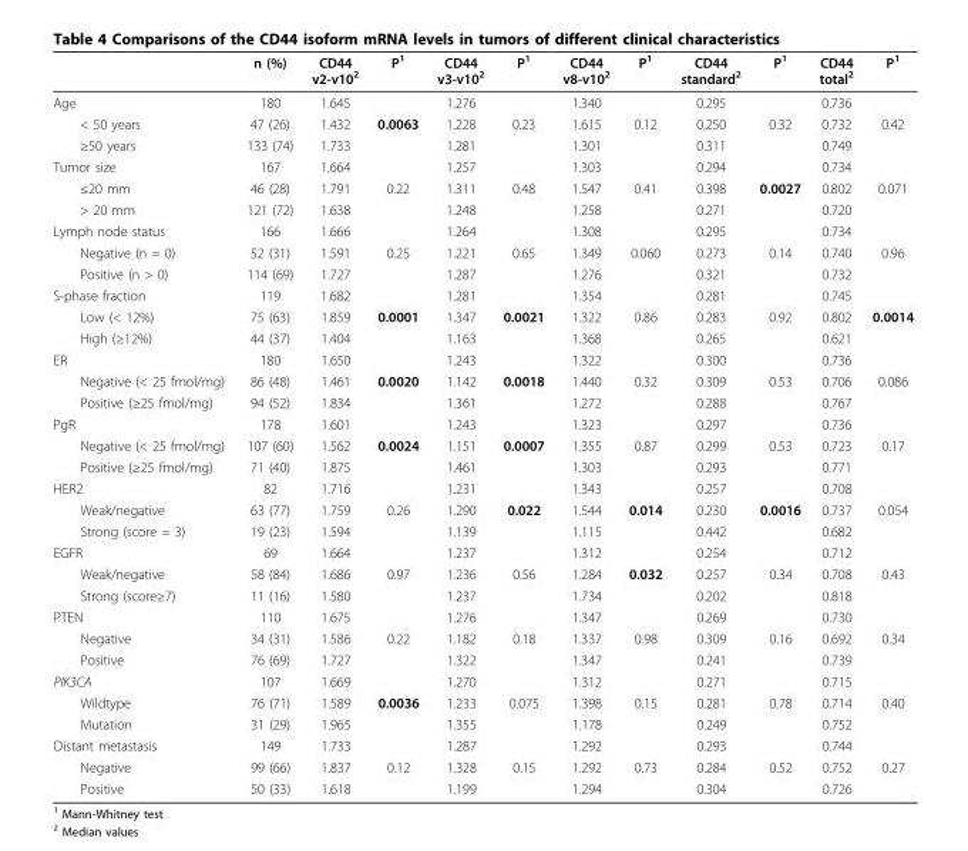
<table><thead><tr><td></td><td>n (%)</td><td>CD44 v2-v10<sup>2</sup></td><td>P<sup>1</sup></td><td>CD44 v3-v10<sup>2</sup></td><td>P<sup>1</sup></td><td>CD44 v8-v10<sup>2</sup></td><td>P<sup>1</sup></td><td>CD44 standard<sup>2</sup></td><td>P<sup>1</sup></td><td>CD44 total<sup>2</sup></td><td>P<sup>1</sup></td></tr></thead><tbody><tr><td>Age</td><td>180</td><td>1.645</td><td></td><td>1.276</td><td></td><td>1.340</td><td></td><td>0.295</td><td></td><td>0.736</td><td></td></tr><tr><td>&lt; 50 years</td><td>47 (26)</td><td>1.432</td><td>0.0063</td><td>1.228</td><td>0.23</td><td>1.615</td><td>0.12</td><td>0.250</td><td>0.32</td><td>0.732</td><td>0.42</td></tr><tr><td>≥50 years</td><td>133 (74)</td><td>1.733</td><td></td><td>1.281</td><td></td><td>1.301</td><td></td><td>0.311</td><td></td><td>0.749</td><td></td></tr><tr><td>Tumor size</td><td>167</td><td>1.664</td><td></td><td>1.257</td><td></td><td>1.303</td><td></td><td>0.294</td><td></td><td>0.734</td><td></td></tr><tr><td>≤20 mm</td><td>46 (28)</td><td>1.791</td><td>0.22</td><td>1.311</td><td>0.48</td><td>1.547</td><td>0.41</td><td>0.398</td><td>0.0027</td><td>0.802</td><td>0.071</td></tr><tr><td>&gt; 20 mm</td><td>121 (72)</td><td>1.638</td><td></td><td>1.248</td><td></td><td>1.258</td><td></td><td>0.271</td><td></td><td>0.720</td><td></td></tr><tr><td>Lymph node status</td><td>166</td><td>1.666</td><td></td><td>1.264</td><td></td><td>1.308</td><td></td><td>0.295</td><td></td><td>0.734</td><td></td></tr><tr><td>Negative (n = 0)</td><td>52 (31)</td><td>1.591</td><td>0.25</td><td>1.221</td><td>0.65</td><td>1.349</td><td>0.060</td><td>0.273</td><td>0.14</td><td>0.740</td><td>0.96</td></tr><tr><td>Positive (n &gt; 0)</td><td>114 (69)</td><td>1.727</td><td></td><td>1.287</td><td></td><td>1.276</td><td></td><td>0.321</td><td></td><td>0.732</td><td></td></tr><tr><td>S-phase fraction</td><td>119</td><td>1.682</td><td></td><td>1.281</td><td></td><td>1.354</td><td></td><td>0.281</td><td></td><td>0.745</td><td></td></tr><tr><td>Low (&lt; 12%)</td><td>75 (63)</td><td>1.859</td><td>0.0001</td><td>1.347</td><td>0.0021</td><td>1.322</td><td>0.86</td><td>0.283</td><td>0.92</td><td>0.802</td><td>0.0014</td></tr><tr><td>High (≥12%)</td><td>44 (37)</td><td>1.404</td><td></td><td>1.163</td><td></td><td>1.368</td><td></td><td>0.265</td><td></td><td>0.621</td><td></td></tr><tr><td>ER</td><td>180</td><td>1.650</td><td></td><td>1.243</td><td></td><td>1.322</td><td></td><td>0.300</td><td></td><td>0.736</td><td></td></tr><tr><td>Negative (&lt; 25 fmol/mg)</td><td>86 (48)</td><td>1.461</td><td>0.0020</td><td>1.142</td><td>0.0018</td><td>1.440</td><td>0.32</td><td>0.309</td><td>0.53</td><td>0.706</td><td>0.086</td></tr><tr><td>Positive (≥25 fmol/mg)</td><td>94 (52)</td><td>1.834</td><td></td><td>1.361</td><td></td><td>1.272</td><td></td><td>0.288</td><td></td><td>0.767</td><td></td></tr><tr><td>PgR</td><td>178</td><td>1.601</td><td></td><td>1.243</td><td></td><td>1.323</td><td></td><td>0.297</td><td></td><td>0.736</td><td></td></tr><tr><td>Negative (&lt; 25 fmol/mg)</td><td>107 (60)</td><td>1.562</td><td>0.0024</td><td>1.151</td><td>0.0007</td><td>1.355</td><td>0.87</td><td>0.299</td><td>0.53</td><td>0.723</td><td>0.17</td></tr><tr><td>Positive (≥25 fmol/mg)</td><td>71 (40)</td><td>1.875</td><td></td><td>1.461</td><td></td><td>1.303</td><td></td><td>0.293</td><td></td><td>0.771</td><td></td></tr><tr><td>HER2</td><td>82</td><td>1.716</td><td></td><td>1.231</td><td></td><td>1.343</td><td></td><td>0.257</td><td></td><td>0.708</td><td></td></tr><tr><td>Weak/negative</td><td>63 (77)</td><td>1.759</td><td>0.26</td><td>1.290</td><td>0.022</td><td>1.544</td><td>0.014</td><td>0.230</td><td>0.0016</td><td>0.737</td><td>0.054</td></tr><tr><td>Strong (score = 3)</td><td>19 (23)</td><td>1.594</td><td></td><td>1.139</td><td></td><td>1.115</td><td></td><td>0.442</td><td></td><td>0.682</td><td></td></tr><tr><td>EGFR</td><td>69</td><td>1.664</td><td></td><td>1.237</td><td></td><td>1.312</td><td></td><td>0.254</td><td></td><td>0.712</td><td></td></tr><tr><td>Weak/negative</td><td>58 (84)</td><td>1.686</td><td>0.97</td><td>1.236</td><td>0.56</td><td>1.284</td><td>0.032</td><td>0.257</td><td>0.34</td><td>0.708</td><td>0.43</td></tr><tr><td>Strong (score≥7)</td><td>11 (16)</td><td>1.580</td><td></td><td>1.237</td><td></td><td>1.734</td><td></td><td>0.202</td><td></td><td>0.818</td><td></td></tr><tr><td>PTEN</td><td>110</td><td>1.675</td><td></td><td>1.276</td><td></td><td>1.347</td><td></td><td>0.269</td><td></td><td>0.730</td><td></td></tr><tr><td>Negative</td><td>34 (31)</td><td>1.586</td><td>0.22</td><td>1.182</td><td>0.18</td><td>1.337</td><td>0.98</td><td>0.309</td><td>0.16</td><td>0.692</td><td>0.34</td></tr><tr><td>Positive</td><td>76 (69)</td><td>1.727</td><td></td><td>1.322</td><td></td><td>1.347</td><td></td><td>0.241</td><td></td><td>0.739</td><td></td></tr><tr><td>PIK3CA</td><td>107</td><td>1.669</td><td></td><td>1.270</td><td></td><td>1.312</td><td></td><td>0.271</td><td></td><td>0.715</td><td></td></tr><tr><td>Wildtype</td><td>76 (71)</td><td>1.589</td><td>0.0036</td><td>1.233</td><td>0.075</td><td>1.398</td><td>0.15</td><td>0.281</td><td>0.78</td><td>0.714</td><td>0.40</td></tr><tr><td>Mutation</td><td>31 (29)</td><td>1.965</td><td></td><td>1.355</td><td></td><td>1.178</td><td></td><td>0.249</td><td></td><td>0.752</td><td></td></tr><tr><td>Distant metastasis</td><td>149</td><td>1.733</td><td></td><td>1.287</td><td></td><td>1.292</td><td></td><td>0.293</td><td></td><td>0.744</td><td></td></tr><tr><td>Negative</td><td>99 (66)</td><td>1.837</td><td>0.12</td><td>1.328</td><td>0.15</td><td>1.292</td><td>0.73</td><td>0.284</td><td>0.52</td><td>0.752</td><td>0.27</td></tr><tr><td>Positive</td><td>50 (33)</td><td>1.618</td><td></td><td>1.199</td><td></td><td>1.294</td><td></td><td>0.304</td><td></td><td>0.726</td><td></td></tr></tbody></table>